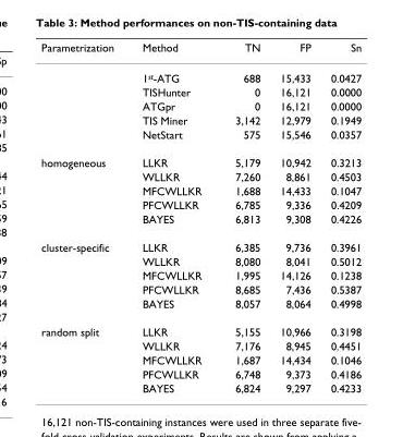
<table><thead><tr><td>Parametrization</td><td>Method</td><td>TN</td><td>FP</td><td>Sn</td></tr></thead><tbody><tr><td></td><td>1<sup>st</sup>-ATG</td><td>688</td><td>15,433</td><td>0.0427</td></tr><tr><td></td><td>TISHunter</td><td>0</td><td>16,121</td><td>0.0000</td></tr><tr><td></td><td>ATGpr</td><td>0</td><td>16,121</td><td>0.0000</td></tr><tr><td></td><td>TIS Miner</td><td>3,142</td><td>12,979</td><td>0.1949</td></tr><tr><td></td><td>NetStart</td><td>575</td><td>15,546</td><td>0.0357</td></tr><tr><td rowspan="5">homogeneous</td><td>LLKR</td><td>5,179</td><td>10,942</td><td>0.3213</td></tr><tr><td>WLLKR</td><td>7,260</td><td>8,861</td><td>0.4503</td></tr><tr><td>MFCWLLKR</td><td>1,688</td><td>14,433</td><td>0.1047</td></tr><tr><td>PFCWLLKR</td><td>6,785</td><td>9,336</td><td>0.4209</td></tr><tr><td>BAYES</td><td>6,813</td><td>9,308</td><td>0.4226</td></tr><tr><td rowspan="5">cluster-specific</td><td>LLKR</td><td>6,385</td><td>9,736</td><td>0.3961</td></tr><tr><td>WLLKR</td><td>8,080</td><td>8,041</td><td>0.5012</td></tr><tr><td>MFCWLLKR</td><td>1,995</td><td>14,126</td><td>0.1238</td></tr><tr><td>PFCWLLKR</td><td>8,685</td><td>7,436</td><td>0.5387</td></tr><tr><td>BAYES</td><td>8,057</td><td>8,064</td><td>0.4998</td></tr><tr><td rowspan="5">random split</td><td>LLKR</td><td>5,155</td><td>10,966</td><td>0.3198</td></tr><tr><td>WLLKR</td><td>7,176</td><td>8,945</td><td>0.4451</td></tr><tr><td>MFCWLLKR</td><td>1,687</td><td>14,434</td><td>0.1046</td></tr><tr><td>PFCWLLKR</td><td>6,748</td><td>9,373</td><td>0.4186</td></tr><tr><td>BAYES</td><td>6,824</td><td>9,297</td><td>0.4233</td></tr></tbody></table>